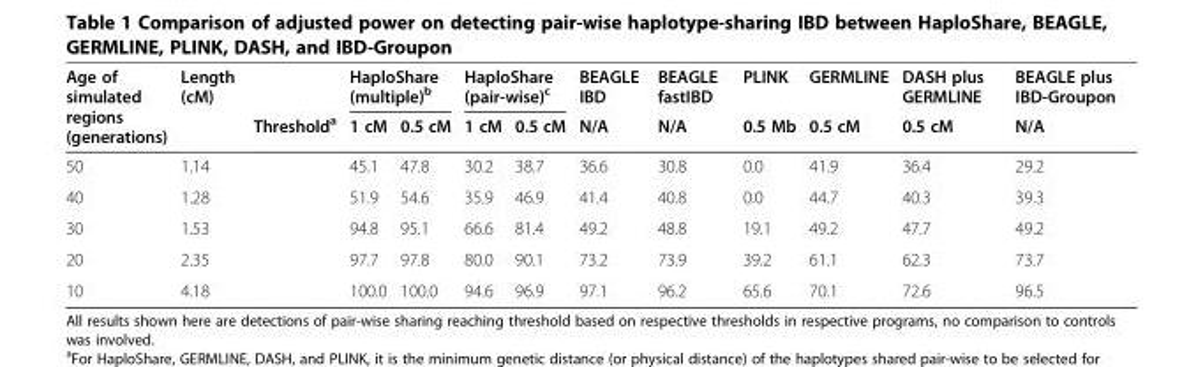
<table><thead><tr><td rowspan="2">Age of simulated regions (generations)</td><td rowspan="2">Length (cM)</td><td rowspan="2">Threshold<sup>a</sup></td><td colspan="2">HaploShare (multiple)<sup>b</sup></td><td colspan="2">HaploShare (pair-wise)<sup>c</sup></td><td rowspan="2">BEAGLE IBD N/A</td><td rowspan="2">BEAGLE fastIBD N/A</td><td rowspan="2">PLINK 0.5 Mb</td><td rowspan="2">GERMLINE 0.5 cM</td><td rowspan="2">DASH plus GERMLINE 0.5 cM</td><td rowspan="2">BEAGLE plus IBD-Groupon N/A</td></tr><tr><td>1 cM</td><td>0.5 cM</td><td>1 cM</td><td>0.5 cM</td></tr></thead><tbody><tr><td>50</td><td>1.14</td><td></td><td>45.1</td><td>47.8</td><td>30.2</td><td>38.7</td><td>36.6</td><td>30.8</td><td>0.0</td><td>41.9</td><td>36.4</td><td>29.2</td></tr><tr><td>40</td><td>1.28</td><td></td><td>51.9</td><td>54.6</td><td>35.9</td><td>46.9</td><td>41.4</td><td>40.8</td><td>0.0</td><td>44.7</td><td>40.3</td><td>39.3</td></tr><tr><td>30</td><td>1.53</td><td></td><td>94.8</td><td>95.1</td><td>66.6</td><td>81.4</td><td>49.2</td><td>48.8</td><td>19.1</td><td>49.2</td><td>47.7</td><td>49.2</td></tr><tr><td>20</td><td>2.35</td><td></td><td>97.7</td><td>97.8</td><td>80.0</td><td>90.1</td><td>73.2</td><td>73.9</td><td>39.2</td><td>61.1</td><td>62.3</td><td>73.7</td></tr><tr><td>10</td><td>4.18</td><td></td><td>100.0</td><td>100.0</td><td>94.6</td><td>96.9</td><td>97.1</td><td>96.2</td><td>65.6</td><td>70.1</td><td>72.6</td><td>96.5</td></tr></tbody></table>